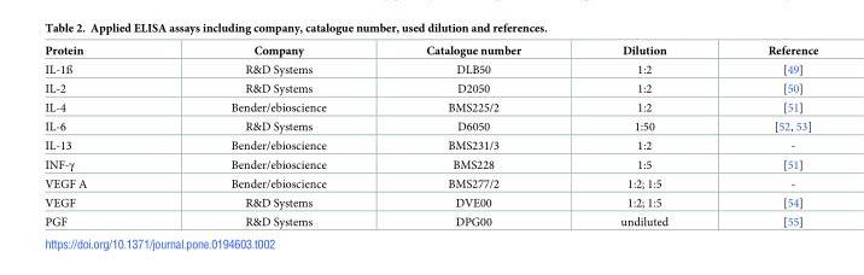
<table><thead><tr><td>Protein</td><td>Company</td><td>Catalogue number</td><td>Dilution</td><td>Reference</td></tr></thead><tbody><tr><td>IL-1ß</td><td>R&amp;D Systems</td><td>DLB50</td><td>1:2</td><td>[49]</td></tr><tr><td>IL-2</td><td>R&amp;D Systems</td><td>D2050</td><td>1:2</td><td>[50]</td></tr><tr><td>IL-4</td><td>Bender/ebioscience</td><td>BMS225/2</td><td>1:2</td><td>[51]</td></tr><tr><td>IL-6</td><td>R&amp;D Systems</td><td>D6050</td><td>1:50</td><td>[52, 53]</td></tr><tr><td>IL-13</td><td>Bender/ebioscience</td><td>BMS231/3</td><td>1:2</td><td>-</td></tr><tr><td>INF-γ</td><td>Bender/ebioscience</td><td>BMS228</td><td>1:5</td><td>[51]</td></tr><tr><td>VEGF A</td><td>Bender/ebioscience</td><td>BMS277/2</td><td>1:2; 1:5</td><td>-</td></tr><tr><td>VEGF</td><td>R&amp;D Systems</td><td>DVE00</td><td>1:2; 1:5</td><td>[54]</td></tr><tr><td>PGF</td><td>R&amp;D Systems</td><td>DPG00</td><td>undiluted</td><td>[55]</td></tr></tbody></table>